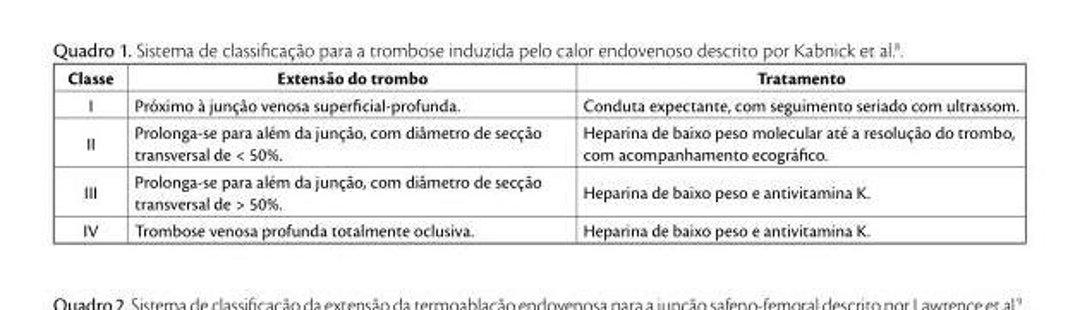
<table><thead><tr><td>Classe</td><td>Extensão do trombo</td><td>Tratamento</td></tr></thead><tbody><tr><td>I</td><td>Próximo à junção venosa superficial-profunda.</td><td>Conduta expectante, com seguimento seriado com ultrassom.</td></tr><tr><td>II</td><td>Prolonga-se para além da junção, com diâmetro de secção transversal de &lt; 50%.</td><td>Heparina de baixo peso molecular até a resolução do trombo, com acompanhamento ecográfico.</td></tr><tr><td>III</td><td>Prolonga-se para além da junção, com diâmetro de secção transversal de &gt; 50%.</td><td>Heparina de baixo peso e antivitamina K.</td></tr><tr><td>IV</td><td>Trombose venosa profunda totalmente oclusiva.</td><td>Heparina de baixo peso e antivitamina K.</td></tr></tbody></table>